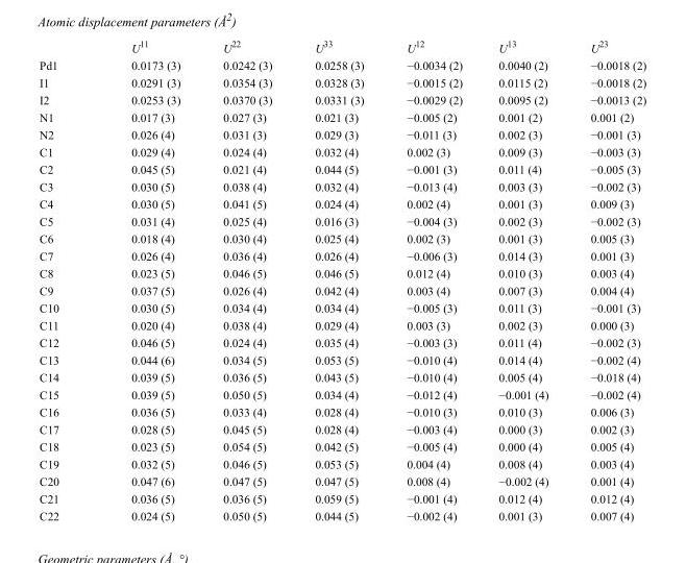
<table><thead><tr><td></td><td>U<sup>11</sup></td><td>U<sup>22</sup></td><td>U<sup>33</sup></td><td>U<sup>12</sup></td><td>U<sup>13</sup></td><td>U<sup>23</sup></td></tr></thead><tbody><tr><td>Pd1</td><td>0.0173 (3)</td><td>0.0242 (3)</td><td>0.0258 (3)</td><td>−0.0034 (2)</td><td>0.0040 (2)</td><td>−0.0018 (2)</td></tr><tr><td>I1</td><td>0.0291 (3)</td><td>0.0354 (3)</td><td>0.0328 (3)</td><td>−0.0015 (2)</td><td>0.0115 (2)</td><td>−0.0018 (2)</td></tr><tr><td>I2</td><td>0.0253 (3)</td><td>0.0370 (3)</td><td>0.0331 (3)</td><td>−0.0029 (2)</td><td>0.0095 (2)</td><td>−0.0013 (2)</td></tr><tr><td>N1</td><td>0.017 (3)</td><td>0.027 (3)</td><td>0.021 (3)</td><td>−0.005 (2)</td><td>0.001 (2)</td><td>0.001 (2)</td></tr><tr><td>N2</td><td>0.026 (4)</td><td>0.031 (3)</td><td>0.029 (3)</td><td>−0.011 (3)</td><td>0.002 (3)</td><td>−0.001 (3)</td></tr><tr><td>C1</td><td>0.029 (4)</td><td>0.024 (4)</td><td>0.032 (4)</td><td>0.002 (3)</td><td>0.009 (3)</td><td>−0.003 (3)</td></tr><tr><td>C2</td><td>0.045 (5)</td><td>0.021 (4)</td><td>0.044 (5)</td><td>−0.001 (3)</td><td>0.011 (4)</td><td>−0.005 (3)</td></tr><tr><td>C3</td><td>0.030 (5)</td><td>0.038 (4)</td><td>0.032 (4)</td><td>−0.013 (4)</td><td>0.003 (3)</td><td>−0.002 (3)</td></tr><tr><td>C4</td><td>0.030 (5)</td><td>0.041 (5)</td><td>0.024 (4)</td><td>0.002 (4)</td><td>0.001 (3)</td><td>0.009 (3)</td></tr><tr><td>C5</td><td>0.031 (4)</td><td>0.025 (4)</td><td>0.016 (3)</td><td>−0.004 (3)</td><td>0.002 (3)</td><td>−0.002 (3)</td></tr><tr><td>C6</td><td>0.018 (4)</td><td>0.030 (4)</td><td>0.025 (4)</td><td>0.002 (3)</td><td>0.001 (3)</td><td>0.005 (3)</td></tr><tr><td>C7</td><td>0.026 (4)</td><td>0.036 (4)</td><td>0.026 (4)</td><td>−0.006 (3)</td><td>0.014 (3)</td><td>0.001 (3)</td></tr><tr><td>C8</td><td>0.023 (5)</td><td>0.046 (5)</td><td>0.046 (5)</td><td>0.012 (4)</td><td>0.010 (3)</td><td>0.003 (4)</td></tr><tr><td>C9</td><td>0.037 (5)</td><td>0.026 (4)</td><td>0.042 (4)</td><td>0.003 (4)</td><td>0.007 (3)</td><td>0.004 (4)</td></tr><tr><td>C10</td><td>0.030 (5)</td><td>0.034 (4)</td><td>0.034 (4)</td><td>−0.005 (3)</td><td>0.011 (3)</td><td>−0.001 (3)</td></tr><tr><td>C11</td><td>0.020 (4)</td><td>0.038 (4)</td><td>0.029 (4)</td><td>0.003 (3)</td><td>0.002 (3)</td><td>0.000 (3)</td></tr><tr><td>C12</td><td>0.046 (5)</td><td>0.024 (4)</td><td>0.035 (4)</td><td>−0.003 (3)</td><td>0.011 (4)</td><td>−0.002 (3)</td></tr><tr><td>C13</td><td>0.044 (6)</td><td>0.034 (5)</td><td>0.053 (5)</td><td>−0.010 (4)</td><td>0.014 (4)</td><td>−0.002 (4)</td></tr><tr><td>C14</td><td>0.039 (5)</td><td>0.036 (5)</td><td>0.043 (5)</td><td>−0.010 (4)</td><td>0.005 (4)</td><td>−0.018 (4)</td></tr><tr><td>C15</td><td>0.039 (5)</td><td>0.050 (5)</td><td>0.034 (4)</td><td>−0.012 (4)</td><td>−0.001 (4)</td><td>−0.002 (4)</td></tr><tr><td>C16</td><td>0.036 (5)</td><td>0.033 (4)</td><td>0.028 (4)</td><td>−0.010 (3)</td><td>0.010 (3)</td><td>0.006 (3)</td></tr><tr><td>C17</td><td>0.028 (5)</td><td>0.045 (5)</td><td>0.028 (4)</td><td>−0.003 (4)</td><td>0.000 (3)</td><td>0.002 (3)</td></tr><tr><td>C18</td><td>0.023 (5)</td><td>0.054 (5)</td><td>0.042 (5)</td><td>−0.005 (4)</td><td>0.000 (4)</td><td>0.005 (4)</td></tr><tr><td>C19</td><td>0.032 (5)</td><td>0.046 (5)</td><td>0.053 (5)</td><td>0.004 (4)</td><td>0.008 (4)</td><td>0.003 (4)</td></tr><tr><td>C20</td><td>0.047 (6)</td><td>0.047 (5)</td><td>0.047 (5)</td><td>0.008 (4)</td><td>−0.002 (4)</td><td>0.001 (4)</td></tr><tr><td>C21</td><td>0.036 (5)</td><td>0.036 (5)</td><td>0.059 (5)</td><td>−0.001 (4)</td><td>0.012 (4)</td><td>0.012 (4)</td></tr><tr><td>C22</td><td>0.024 (5)</td><td>0.050 (5)</td><td>0.044 (5)</td><td>−0.002 (4)</td><td>0.001 (3)</td><td>0.007 (4)</td></tr></tbody></table>